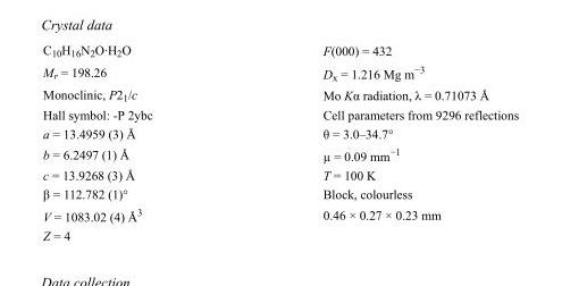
<table><tbody><tr><td>C<sub>10</sub>H<sub>16</sub>N<sub>2</sub>O·H<sub>2</sub>O</td><td>F(000) = 432</td></tr><tr><td>M<sub>r</sub> = 198.26</td><td>D<sub>x</sub> = 1.216 Mg m<sup>−3</sup></td></tr><tr><td>Monoclinic, P2<sub>1</sub>/c</td><td>Mo Kα radiation, λ = 0.71073 Å</td></tr><tr><td>Hall symbol: -P 2ybc</td><td>Cell parameters from 9296 reflections</td></tr><tr><td>a = 13.4959 (3) Å</td><td>θ = 3.0–34.7°</td></tr><tr><td>b = 6.2497 (1) Å</td><td>µ = 0.09 mm<sup>−1</sup></td></tr><tr><td>c = 13.9268 (3) Å</td><td>T = 100 K</td></tr><tr><td>β = 112.782 (1)°</td><td>Block, colourless</td></tr><tr><td>V = 1083.02 (4) Å<sup>3</sup></td><td>0.46 × 0.27 × 0.23 mm</td></tr><tr><td>Z = 4</td><td></td></tr></tbody></table>